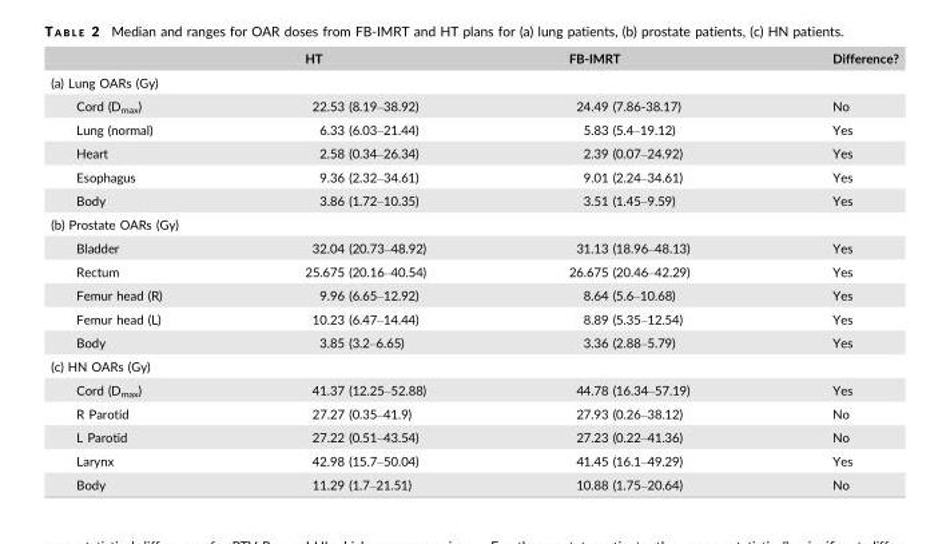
<table><thead><tr><td></td><td>HT</td><td>FB-IMRT</td><td>Difference?</td></tr></thead><tbody><tr><td colspan="4">(a) Lung OARs (Gy)</td></tr><tr><td>Cord (D<sub>max</sub>)</td><td>22.53 (8.19–38.92)</td><td>24.49 (7.86-38.17)</td><td>No</td></tr><tr><td>Lung (normal)</td><td>6.33 (6.03–21.44)</td><td>5.83 (5.4–19.12)</td><td>Yes</td></tr><tr><td>Heart</td><td>2.58 (0.34–26.34)</td><td>2.39 (0.07–24.92)</td><td>Yes</td></tr><tr><td>Esophagus</td><td>9.36 (2.32–34.61)</td><td>9.01 (2.24–34.61)</td><td>Yes</td></tr><tr><td>Body</td><td>3.86 (1.72–10.35)</td><td>3.51 (1.45–9.59)</td><td>Yes</td></tr><tr><td colspan="4">(b) Prostate OARs (Gy)</td></tr><tr><td>Bladder</td><td>32.04 (20.73–48.92)</td><td>31.13 (18.96–48.13)</td><td>Yes</td></tr><tr><td>Rectum</td><td>25.675 (20.16–40.54)</td><td>26.675 (20.46–42.29)</td><td>Yes</td></tr><tr><td>Femur head (R)</td><td>9.96 (6.65–12.92)</td><td>8.64 (5.6–10.68)</td><td>Yes</td></tr><tr><td>Femur head (L)</td><td>10.23 (6.47–14.44)</td><td>8.89 (5.35–12.54)</td><td>Yes</td></tr><tr><td>Body</td><td>3.85 (3.2–6.65)</td><td>3.36 (2.88–5.79)</td><td>Yes</td></tr><tr><td colspan="4">(c) HN OARs (Gy)</td></tr><tr><td>Cord (D<sub>max</sub>)</td><td>41.37 (12.25–52.88)</td><td>44.78 (16.34–57.19)</td><td>Yes</td></tr><tr><td>R Parotid</td><td>27.27 (0.35–41.9)</td><td>27.93 (0.26–38.12)</td><td>No</td></tr><tr><td>L Parotid</td><td>27.22 (0.51–43.54)</td><td>27.23 (0.22–41.36)</td><td>No</td></tr><tr><td>Larynx</td><td>42.98 (15.7–50.04)</td><td>41.45 (16.1–49.29)</td><td>Yes</td></tr><tr><td>Body</td><td>11.29 (1.7–21.51)</td><td>10.88 (1.75–20.64)</td><td>No</td></tr></tbody></table>